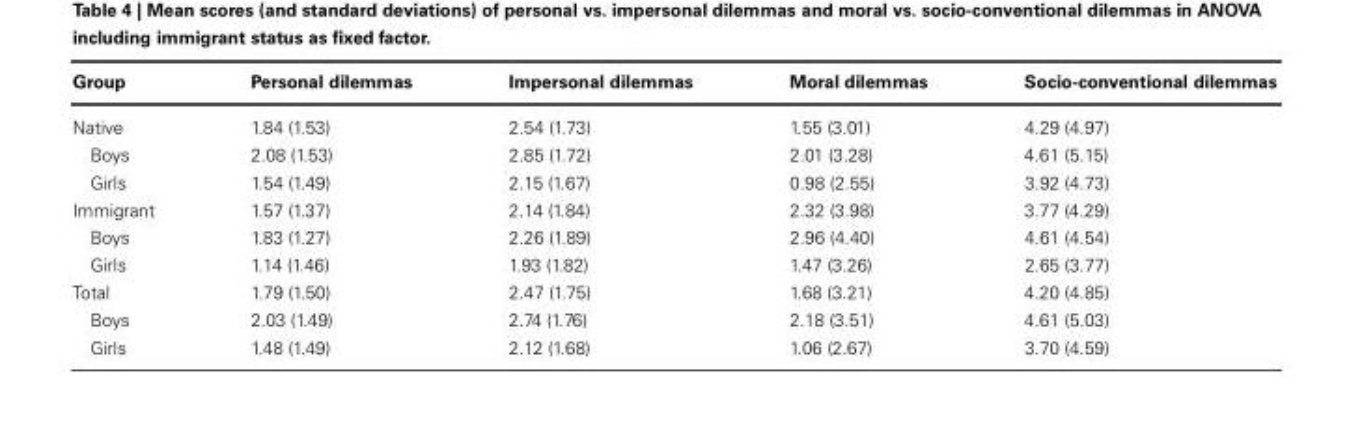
<table><thead><tr><td>Group</td><td>Personal dilemmas</td><td>Impersonal dilemmas</td><td>Moral dilemmas</td><td>Socio-conventional dilemmas</td></tr></thead><tbody><tr><td>Native</td><td>1.84 (1.53)</td><td>2.54 (1.73)</td><td>1.55 (3.01)</td><td>4.29 (4.97)</td></tr><tr><td>Boys</td><td>2.08 (1.53)</td><td>2.85 (1.72)</td><td>2.01 (3.28)</td><td>4.61 (5.15)</td></tr><tr><td>Girls</td><td>1.54 (1.49)</td><td>2.15 (1.67)</td><td>0.98 (2.55)</td><td>3.92 (4.73)</td></tr><tr><td>Immigrant</td><td>1.57 (1.37)</td><td>2.14 (1.84)</td><td>2.32 (3.98)</td><td>3.77 (4.29)</td></tr><tr><td>Boys</td><td>1.83 (1.27)</td><td>2.26 (1.89)</td><td>2.96 (4.40)</td><td>4.61 (4.54)</td></tr><tr><td>Girls</td><td>1.14 (1.46)</td><td>1.93 (1.82)</td><td>1.47 (3.26)</td><td>2.65 (3.77)</td></tr><tr><td>Total</td><td>1.79 (1.50)</td><td>2.47 (1.75)</td><td>1.68 (3.21)</td><td>4.20 (4.85)</td></tr><tr><td>Boys</td><td>2.03 (1.49)</td><td>2.74 (1.76)</td><td>2.18 (3.51)</td><td>4.61 (5.03)</td></tr><tr><td>Girls</td><td>1.48 (1.49)</td><td>2.12 (1.68)</td><td>1.06 (2.67)</td><td>3.70 (4.59)</td></tr></tbody></table>